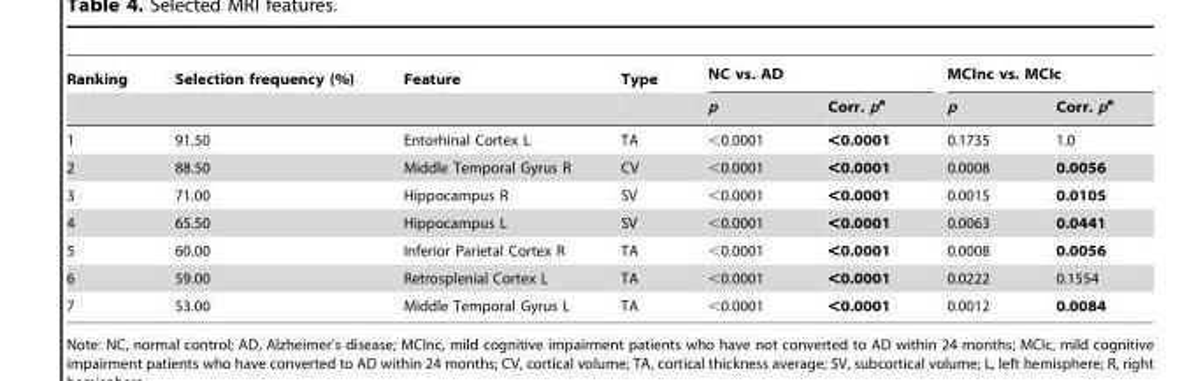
<table><thead><tr><td rowspan="2">Ranking</td><td rowspan="2">Selection frequency (%)</td><td rowspan="2">Feature</td><td rowspan="2">Type</td><td colspan="2">NC vs. AD</td><td colspan="2">MCInc vs. MCIc</td></tr><tr><td>p</td><td>Corr. pa</td><td>p</td><td>Corr. pa</td></tr></thead><tbody><tr><td>1</td><td>91.50</td><td>Entorhinal Cortex L</td><td>TA</td><td>&lt;0.0001</td><td>&lt;0.0001</td><td>0.1735</td><td>1.0</td></tr><tr><td>2</td><td>88.50</td><td>Middle Temporal Gyrus R</td><td>CV</td><td>&lt;0.0001</td><td>&lt;0.0001</td><td>0.0008</td><td>0.0056</td></tr><tr><td>3</td><td>71.00</td><td>Hippocampus R</td><td>SV</td><td>&lt;0.0001</td><td>&lt;0.0001</td><td>0.0015</td><td>0.0105</td></tr><tr><td>4</td><td>65.50</td><td>Hippocampus L</td><td>SV</td><td>&lt;0.0001</td><td>&lt;0.0001</td><td>0.0063</td><td>0.0441</td></tr><tr><td>5</td><td>60.00</td><td>Inferior Parietal Cortex R</td><td>TA</td><td>&lt;0.0001</td><td>&lt;0.0001</td><td>0.0008</td><td>0.0056</td></tr><tr><td>6</td><td>59.00</td><td>Retrosplenial Cortex L</td><td>TA</td><td>&lt;0.0001</td><td>&lt;0.0001</td><td>0.0222</td><td>0.1554</td></tr><tr><td>7</td><td>53.00</td><td>Middle Temporal Gyrus L</td><td>TA</td><td>&lt;0.0001</td><td>&lt;0.0001</td><td>0.0012</td><td>0.0084</td></tr></tbody></table>